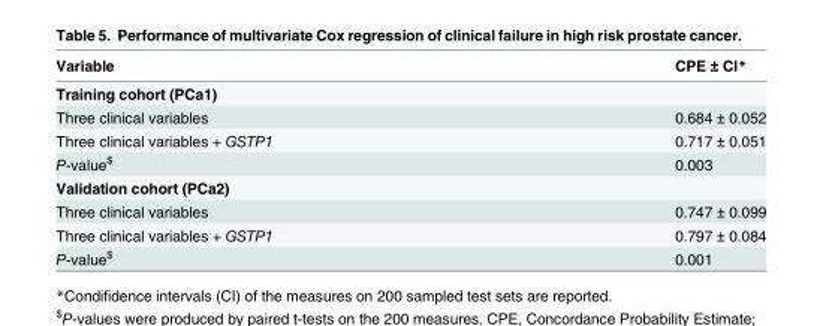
<table><thead><tr><td>Variable</td><td>CPE ± CI*</td></tr></thead><tbody><tr><td colspan="2">Training cohort (PCa1)</td></tr><tr><td>Three clinical variables</td><td>0.684 ± 0.052</td></tr><tr><td>Three clinical variables + GSTP1</td><td>0.717 ± 0.051</td></tr><tr><td>P-value<sup>$</sup></td><td>0.003</td></tr><tr><td colspan="2">Validation cohort (PCa2)</td></tr><tr><td>Three clinical variables</td><td>0.747 ± 0.099</td></tr><tr><td>Three clinical variables + GSTP1</td><td>0.797 ± 0.084</td></tr><tr><td>P-value<sup>$</sup></td><td>0.001</td></tr></tbody></table>